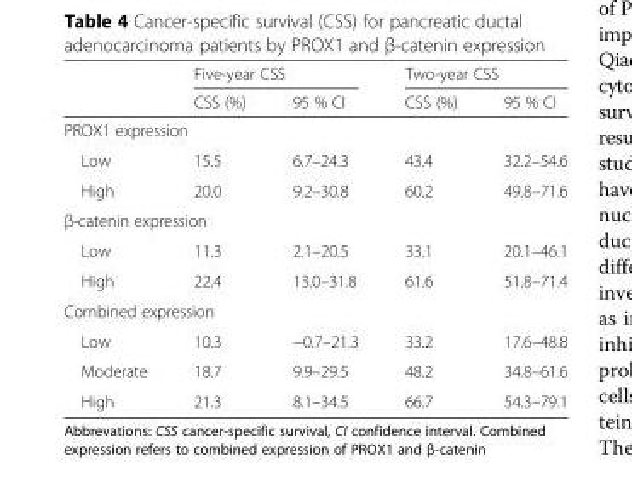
<table><thead><tr><td rowspan="2"></td><td colspan="2">Five-year CSS</td><td colspan="2">Two-year CSS</td></tr><tr><td>CSS (%)</td><td>95 % CI</td><td>CSS (%)</td><td>95 % CI</td></tr></thead><tbody><tr><td colspan="5">PROX1 expression</td></tr><tr><td>Low</td><td>15.5</td><td>6.7–24.3</td><td>43.4</td><td>32.2–54.6</td></tr><tr><td>High</td><td>20.0</td><td>9.2–30.8</td><td>60.2</td><td>49.8–71.6</td></tr><tr><td colspan="5">β-catenin expression</td></tr><tr><td>Low</td><td>11.3</td><td>2.1–20.5</td><td>33.1</td><td>20.1–46.1</td></tr><tr><td>High</td><td>22.4</td><td>13.0–31.8</td><td>61.6</td><td>51.8–71.4</td></tr><tr><td colspan="5">Combined expression</td></tr><tr><td>Low</td><td>10.3</td><td>−0.7–21.3</td><td>33.2</td><td>17.6–48.8</td></tr><tr><td>Moderate</td><td>18.7</td><td>9.9–29.5</td><td>48.2</td><td>34.8–61.6</td></tr><tr><td>High</td><td>21.3</td><td>8.1–34.5</td><td>66.7</td><td>54.3–79.1</td></tr></tbody></table>